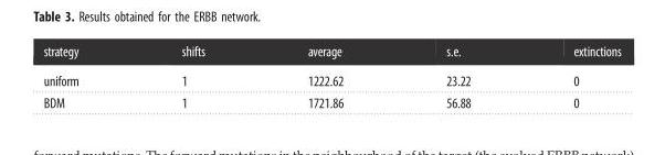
<table><thead><tr><td>strategy</td><td>shifts</td><td>average</td><td>s.e.</td><td>extinctions</td></tr></thead><tbody><tr><td>uniform</td><td>1</td><td>1222.62</td><td>23.22</td><td>0</td></tr><tr><td>BDM</td><td>1</td><td>1721.86</td><td>56.88</td><td>0</td></tr></tbody></table>